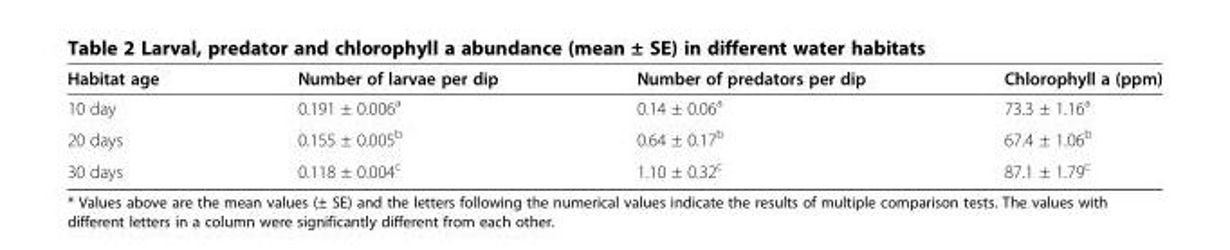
<table><thead><tr><td>Habitat age</td><td>Number of larvae per dip</td><td>Number of predators per dip</td><td>Chlorophyll a (ppm)</td></tr></thead><tbody><tr><td>10 day</td><td>0.191 ± 0.006<sup>a</sup></td><td>0.14 ± 0.06<sup>a</sup></td><td>73.3 ± 1.16<sup>a</sup></td></tr><tr><td>20 days</td><td>0.155 ± 0.005<sup>b</sup></td><td>0.64 ± 0.17<sup>b</sup></td><td>67.4 ± 1.06<sup>b</sup></td></tr><tr><td>30 days</td><td>0.118 ± 0.004<sup>c</sup></td><td>1.10 ± 0.32<sup>c</sup></td><td>87.1 ± 1.79<sup>c</sup></td></tr></tbody></table>